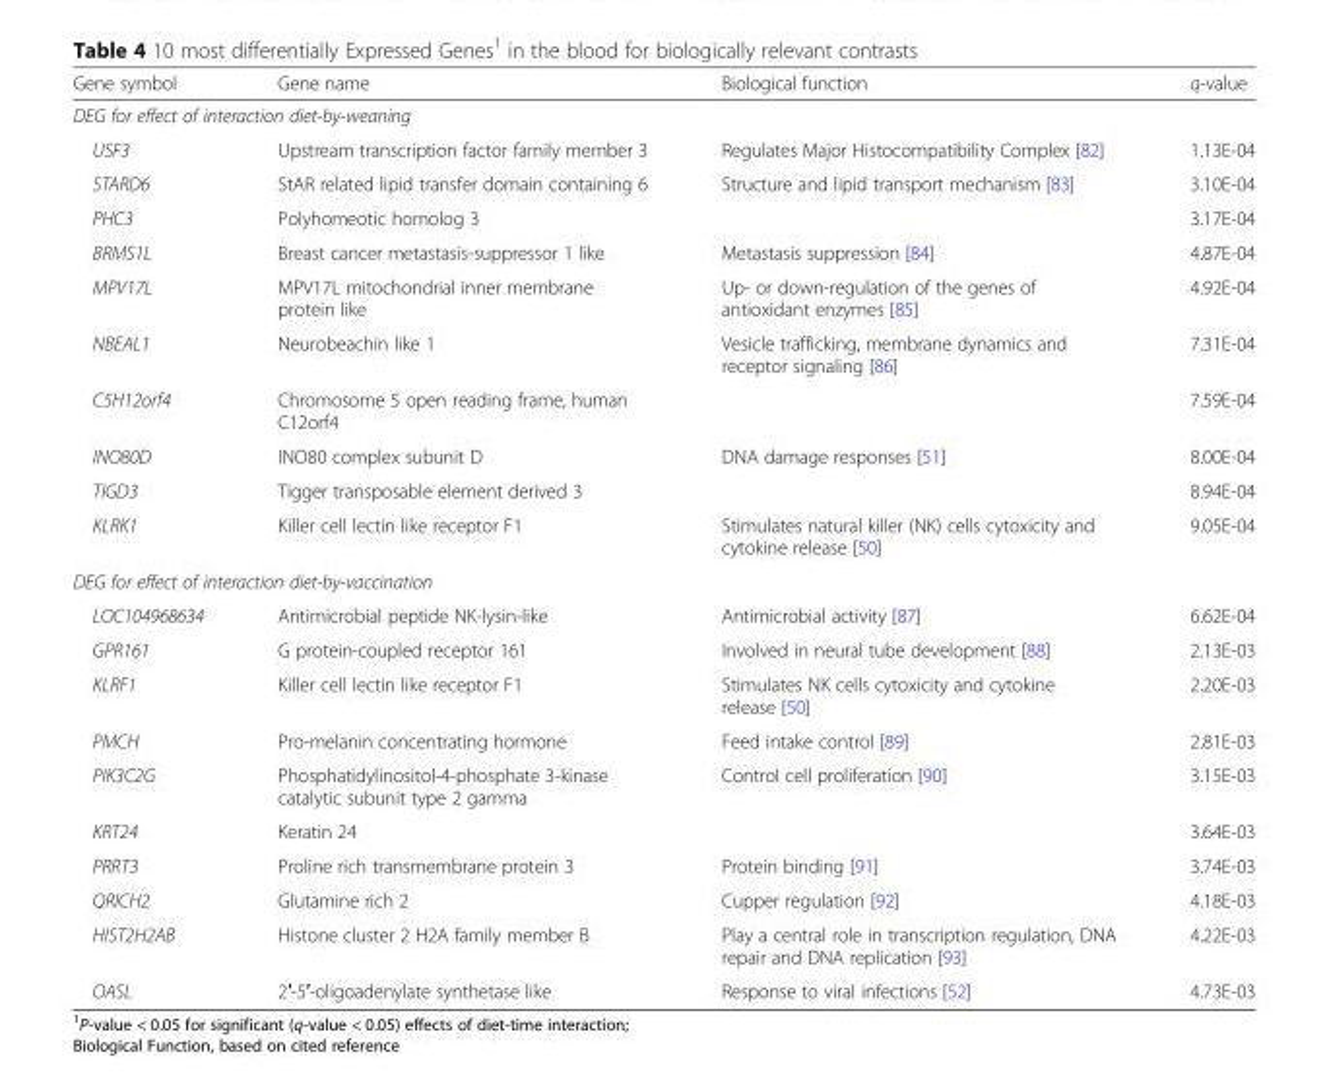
<table><thead><tr><td>Gene symbol</td><td>Gene name</td><td>Biological function</td><td>q-value</td></tr></thead><tbody><tr><td colspan="4">DEG for effect of interaction diet-by-weaning</td></tr><tr><td>USF3</td><td>Upstream transcription factor family member 3</td><td>Regulates Major Histocompatibility Complex [82]</td><td>1.13E-04</td></tr><tr><td>STARD6</td><td>StAR related lipid transfer domain containing 6</td><td>Structure and lipid transport mechanism [83]</td><td>3.10E-04</td></tr><tr><td>PHC3</td><td>Polyhomeotic homolog 3</td><td></td><td>3.17E-04</td></tr><tr><td>BRMS1L</td><td>Breast cancer metastasis-suppressor 1 like</td><td>Metastasis suppression [84]</td><td>4.87E-04</td></tr><tr><td>MPV17L</td><td>MPV17L mitochondrial inner membrane protein like</td><td>Up- or down-regulation of the genes of antioxidant enzymes [85]</td><td>4.92E-04</td></tr><tr><td>NBEAL1</td><td>Neurobeachin like 1</td><td>Vesicle trafficking, membrane dynamics and receptor signaling [86]</td><td>7.31E-04</td></tr><tr><td>C5H12orf4</td><td>Chromosome 5 open reading frame, human C12orf4</td><td></td><td>7.59E-04</td></tr><tr><td>INO80D</td><td>INO80 complex subunit D</td><td>DNA damage responses [51]</td><td>8.00E-04</td></tr><tr><td>TIGD3</td><td>Tigger transposable element derived 3</td><td></td><td>8.94E-04</td></tr><tr><td>KLRK1</td><td>Killer cell lectin like receptor F1</td><td>Stimulates natural killer (NK) cells cytoxicity and cytokine release [50]</td><td>9.05E-04</td></tr><tr><td colspan="4">DEG for effect of interaction diet-by-vaccination</td></tr><tr><td>LOC104968634</td><td>Antimicrobial peptide NK-lysin-like</td><td>Antimicrobial activity [87]</td><td>6.62E-04</td></tr><tr><td>GPR161</td><td>G protein-coupled receptor 161</td><td>Involved in neural tube development [88]</td><td>2.13E-03</td></tr><tr><td>KLRF1</td><td>Killer cell lectin like receptor F1</td><td>Stimulates NK cells cytoxicity and cytokine release [50]</td><td>2.20E-03</td></tr><tr><td>PMCH</td><td>Pro-melanin concentrating hormone</td><td>Feed intake control [89]</td><td>2.81E-03</td></tr><tr><td>PIK3C2G</td><td>Phosphatidylinositol-4-phosphate 3-kinase catalytic subunit type 2 gamma</td><td>Control cell proliferation [90]</td><td>3.15E-03</td></tr><tr><td>KRT24</td><td>Keratin 24</td><td></td><td>3.64E-03</td></tr><tr><td>PRRT3</td><td>Proline rich transmembrane protein 3</td><td>Protein binding [91]</td><td>3.74E-03</td></tr><tr><td>QRICH2</td><td>Glutamine rich 2</td><td>Cupper regulation [92]</td><td>4.18E-03</td></tr><tr><td>HIST2H2AB</td><td>Histone cluster 2 H2A family member B</td><td>Play a central role in transcription regulation, DNA repair and DNA replication [93]</td><td>4.22E-03</td></tr><tr><td>OASL</td><td>2′-5′-oligoadenylate synthetase like</td><td>Response to viral infections [52]</td><td>4.73E-03</td></tr></tbody></table>